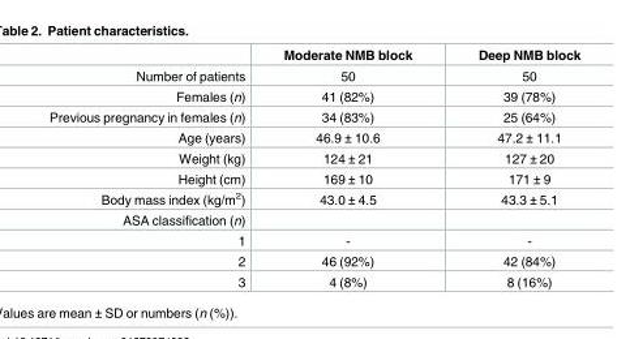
<table><thead><tr><td></td><td>Moderate NMB block</td><td>Deep NMB block</td></tr></thead><tbody><tr><td>Number of patients</td><td>50</td><td>50</td></tr><tr><td>Females (n)</td><td>41 (82%)</td><td>39 (78%)</td></tr><tr><td>Previous pregnancy in females (n)</td><td>34 (83%)</td><td>25 (64%)</td></tr><tr><td>Age (years)</td><td>46.9 ± 10.6</td><td>47.2 ± 11.1</td></tr><tr><td>Weight (kg)</td><td>124 ± 21</td><td>127 ± 20</td></tr><tr><td>Height (cm)</td><td>169 ± 10</td><td>171 ± 9</td></tr><tr><td>Body mass index (kg/m<sup>2</sup>)</td><td>43.0 ± 4.5</td><td>43.3 ± 5.1</td></tr><tr><td colspan="3">ASA classification (n)</td></tr><tr><td>1</td><td>-</td><td>-</td></tr><tr><td>2</td><td>46 (92%)</td><td>42 (84%)</td></tr><tr><td>3</td><td>4 (8%)</td><td>8 (16%)</td></tr></tbody></table>